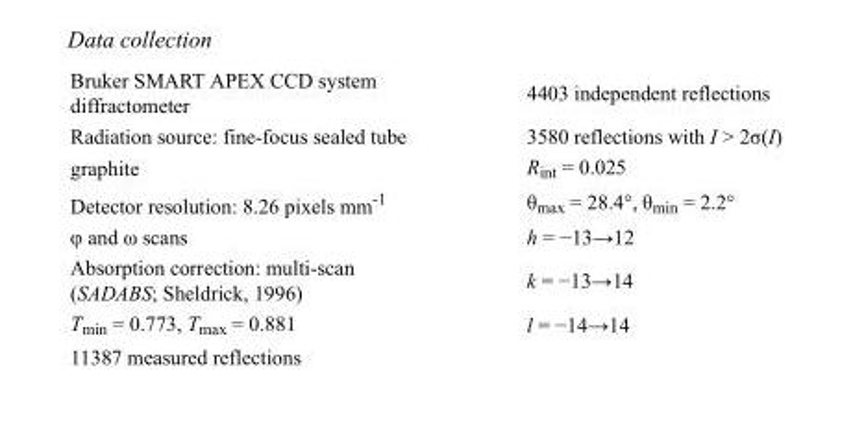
<table><tbody><tr><td>Bruker SMART APEX CCD system diffractometer</td><td>4403 independent reflections</td></tr><tr><td>Radiation source: fine-focus sealed tube</td><td>3580 reflections with I &gt; 2σ(I)</td></tr><tr><td>graphite</td><td>R<sub>int</sub> = 0.025</td></tr><tr><td>Detector resolution: 8.26 pixels mm<sup>-1</sup></td><td>θ<sub>max</sub> = 28.4°, θ<sub>min</sub> = 2.2°</td></tr><tr><td>φ and ω scans</td><td>h = −13→12</td></tr><tr><td>Absorption correction: multi-scan (SADABS; Sheldrick, 1996)</td><td>k = −13→14</td></tr><tr><td>T<sub>min</sub> = 0.773, T<sub>max</sub> = 0.881</td><td>l = −14→14</td></tr><tr><td>11387 measured reflections</td><td></td></tr></tbody></table>